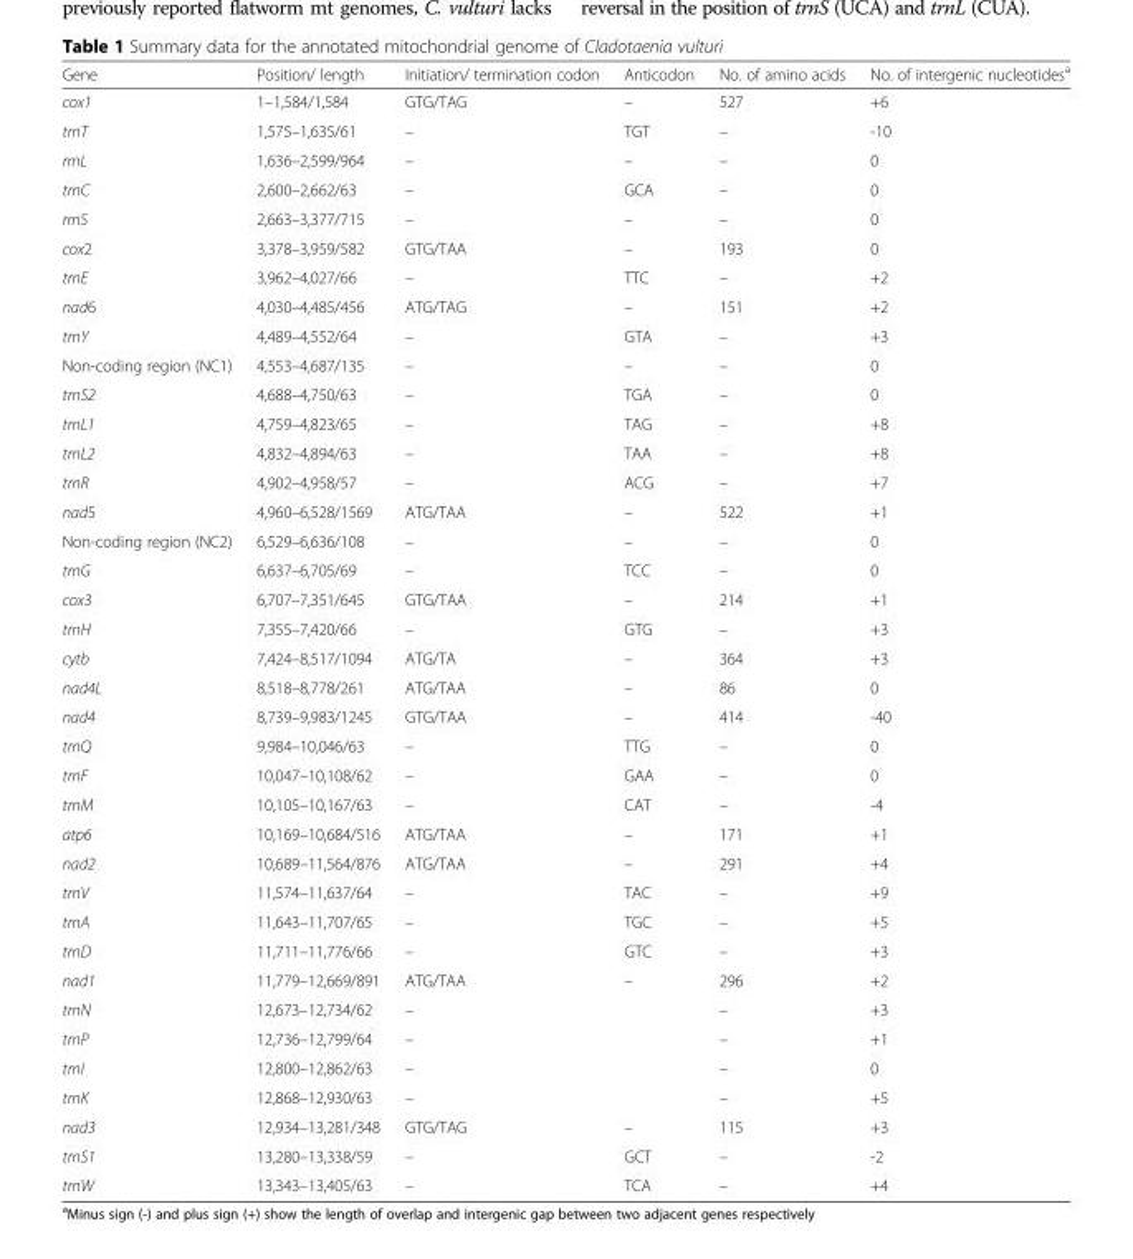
<table><thead><tr><td>Gene</td><td>Position/ length</td><td>Initiation/ termination codon</td><td>Anticodon</td><td>No. of amino acids</td><td>No. of intergenic nucleotides<sup>a</sup></td></tr></thead><tbody><tr><td>cox1</td><td>1–1,584/1,584</td><td>GTG/TAG</td><td>–</td><td>527</td><td>+6</td></tr><tr><td>trnT</td><td>1,575–1,635/61</td><td>–</td><td>TGT</td><td>–</td><td>-10</td></tr><tr><td>rrnL</td><td>1,636–2,599/964</td><td>–</td><td>–</td><td>–</td><td>0</td></tr><tr><td>trnC</td><td>2,600–2,662/63</td><td>–</td><td>GCA</td><td>–</td><td>0</td></tr><tr><td>rrnS</td><td>2,663–3,377/715</td><td>–</td><td>–</td><td>–</td><td>0</td></tr><tr><td>cox2</td><td>3,378–3,959/582</td><td>GTG/TAA</td><td>–</td><td>193</td><td>0</td></tr><tr><td>trnE</td><td>3,962–4,027/66</td><td>–</td><td>TTC</td><td>–</td><td>+2</td></tr><tr><td>nad6</td><td>4,030–4,485/456</td><td>ATG/TAG</td><td>–</td><td>151</td><td>+2</td></tr><tr><td>trnY</td><td>4,489–4,552/64</td><td>–</td><td>GTA</td><td>–</td><td>+3</td></tr><tr><td>Non-coding region (NC1)</td><td>4,553–4,687/135</td><td>–</td><td>–</td><td>–</td><td>0</td></tr><tr><td>trnS2</td><td>4,688–4,750/63</td><td>–</td><td>TGA</td><td>–</td><td>0</td></tr><tr><td>trnL1</td><td>4,759–4,823/65</td><td>–</td><td>TAG</td><td>–</td><td>+8</td></tr><tr><td>trnL2</td><td>4,832–4,894/63</td><td>–</td><td>TAA</td><td>–</td><td>+8</td></tr><tr><td>trnR</td><td>4,902–4,958/57</td><td>–</td><td>ACG</td><td>–</td><td>+7</td></tr><tr><td>nad5</td><td>4,960–6,528/1569</td><td>ATG/TAA</td><td>–</td><td>522</td><td>+1</td></tr><tr><td>Non-coding region (NC2)</td><td>6,529–6,636/108</td><td>–</td><td>–</td><td>–</td><td>0</td></tr><tr><td>trnG</td><td>6,637–6,705/69</td><td>–</td><td>TCC</td><td>–</td><td>0</td></tr><tr><td>cox3</td><td>6,707–7,351/645</td><td>GTG/TAA</td><td>–</td><td>214</td><td>+1</td></tr><tr><td>trnH</td><td>7,355–7,420/66</td><td>–</td><td>GTG</td><td>–</td><td>+3</td></tr><tr><td>cytb</td><td>7,424–8,517/1094</td><td>ATG/TA</td><td>–</td><td>364</td><td>+3</td></tr><tr><td>nad4L</td><td>8,518–8,778/261</td><td>ATG/TAA</td><td>–</td><td>86</td><td>0</td></tr><tr><td>nad4</td><td>8,739–9,983/1245</td><td>GTG/TAA</td><td>–</td><td>414</td><td>-40</td></tr><tr><td>trnQ</td><td>9,984–10,046/63</td><td>–</td><td>TTG</td><td>–</td><td>0</td></tr><tr><td>trnF</td><td>10,047–10,108/62</td><td>–</td><td>GAA</td><td>–</td><td>0</td></tr><tr><td>trnM</td><td>10,105–10,167/63</td><td>–</td><td>CAT</td><td>–</td><td>-4</td></tr><tr><td>atp6</td><td>10,169–10,684/516</td><td>ATG/TAA</td><td>–</td><td>171</td><td>+1</td></tr><tr><td>nad2</td><td>10,689–11,564/876</td><td>ATG/TAA</td><td>–</td><td>291</td><td>+4</td></tr><tr><td>trnV</td><td>11,574–11,637/64</td><td>–</td><td>TAC</td><td>–</td><td>+9</td></tr><tr><td>trnA</td><td>11,643–11,707/65</td><td>–</td><td>TGC</td><td>–</td><td>+5</td></tr><tr><td>trnD</td><td>11,711–11,776/66</td><td>–</td><td>GTC</td><td>–</td><td>+3</td></tr><tr><td>nad1</td><td>11,779–12,669/891</td><td>ATG/TAA</td><td>–</td><td>296</td><td>+2</td></tr><tr><td>trnN</td><td>12,673–12,734/62</td><td>–</td><td></td><td>–</td><td>+3</td></tr><tr><td>trnP</td><td>12,736–12,799/64</td><td>–</td><td></td><td>–</td><td>+1</td></tr><tr><td>trnI</td><td>12,800–12,862/63</td><td>–</td><td></td><td>–</td><td>0</td></tr><tr><td>trnK</td><td>12,868–12,930/63</td><td>–</td><td></td><td>–</td><td>+5</td></tr><tr><td>nad3</td><td>12,934–13,281/348</td><td>GTG/TAG</td><td>–</td><td>115</td><td>+3</td></tr><tr><td>trnS1</td><td>13,280–13,338/59</td><td>–</td><td>GCT</td><td>–</td><td>-2</td></tr><tr><td>trnW</td><td>13,343–13,405/63</td><td>–</td><td>TCA</td><td>–</td><td>+4</td></tr></tbody></table>